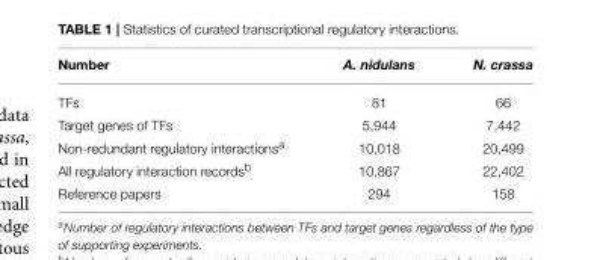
<table><thead><tr><td>Number</td><td>A. nidulans</td><td>N. crassa</td></tr></thead><tbody><tr><td>TFs</td><td>81</td><td>66</td></tr><tr><td>Target genes of TFs</td><td>5,944</td><td>7,442</td></tr><tr><td>Non-redundant regulatory interactions<sup>a</sup></td><td>10,018</td><td>20,499</td></tr><tr><td>All regulatory interaction records<sup>b</sup></td><td>10,867</td><td>22,402</td></tr><tr><td>Reference papers</td><td>294</td><td>158</td></tr></tbody></table>